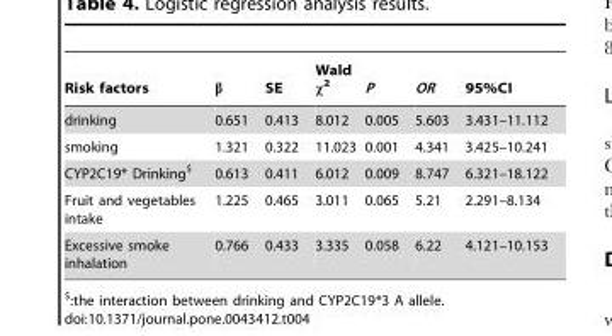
<table><thead><tr><td>Risk factors</td><td>β</td><td>SE</td><td>Wald χ<sup>2</sup></td><td>P</td><td>OR</td><td>95%CI</td></tr></thead><tbody><tr><td>drinking</td><td>0.651</td><td>0.413</td><td>8.012</td><td>0.005</td><td>5.603</td><td>3.431–11.112</td></tr><tr><td>smoking</td><td>1.321</td><td>0.322</td><td>11.023</td><td>0.001</td><td>4.341</td><td>3.425–10.241</td></tr><tr><td>CYP2C19* Drinking$</td><td>0.613</td><td>0.411</td><td>6.012</td><td>0.009</td><td>8.747</td><td>6.321–18.122</td></tr><tr><td>Fruit and vegetables intake</td><td>1.225</td><td>0.465</td><td>3.011</td><td>0.065</td><td>5.21</td><td>2.291–8.134</td></tr><tr><td>Excessive smoke inhalation</td><td>0.766</td><td>0.433</td><td>3.335</td><td>0.058</td><td>6.22</td><td>4.121–10.153</td></tr></tbody></table>